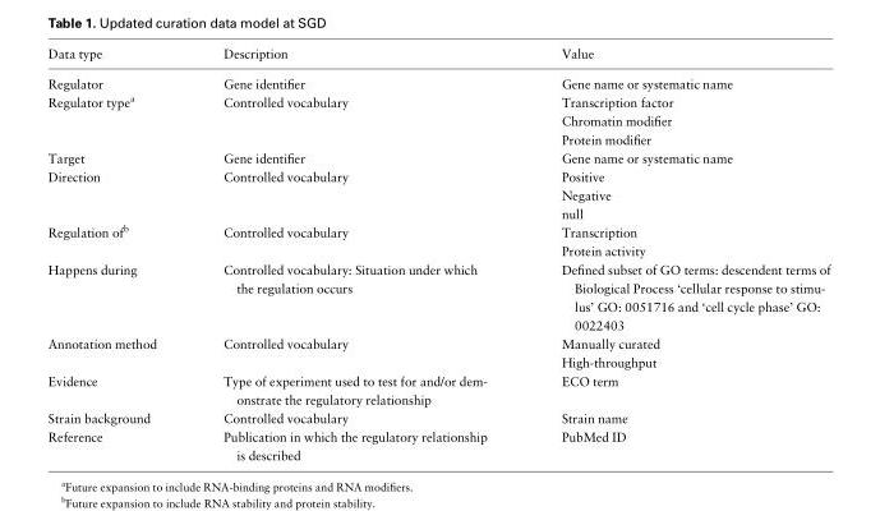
<table><thead><tr><td>Data type</td><td>Description</td><td>Value</td></tr></thead><tbody><tr><td>Regulator</td><td>Gene identifier</td><td>Gene name or systematic name</td></tr><tr><td rowspan="3">Regulator type<sup>a</sup></td><td rowspan="3">Controlled vocabulary</td><td>Transcription factor</td></tr><tr><td>Chromatin modifier</td></tr><tr><td>Protein modifier</td></tr><tr><td>Target</td><td>Gene identifier</td><td>Gene name or systematic name</td></tr><tr><td rowspan="3">Direction</td><td rowspan="3">Controlled vocabulary</td><td>Positive</td></tr><tr><td>Negative</td></tr><tr><td>null</td></tr><tr><td rowspan="2">Regulation of<sup>b</sup></td><td rowspan="2">Controlled vocabulary</td><td>Transcription</td></tr><tr><td>Protein activity</td></tr><tr><td>Happens during</td><td>Controlled vocabulary: Situation under which the regulation occurs</td><td>Defined subset of GO terms: descendent terms of Biological Process ‘cellular response to stimu- lus’ GO: 0051716 and ‘cell cycle phase’ GO: 0022403</td></tr><tr><td rowspan="2">Annotation method</td><td rowspan="2">Controlled vocabulary</td><td>Manually curated</td></tr><tr><td>High-throughput</td></tr><tr><td>Evidence</td><td>Type of experiment used to test for and/or dem- onstrate the regulatory relationship</td><td>ECO term</td></tr><tr><td>Strain background</td><td>Controlled vocabulary</td><td>Strain name</td></tr><tr><td>Reference</td><td>Publication in which the regulatory relationship is described</td><td>PubMed ID</td></tr></tbody></table>